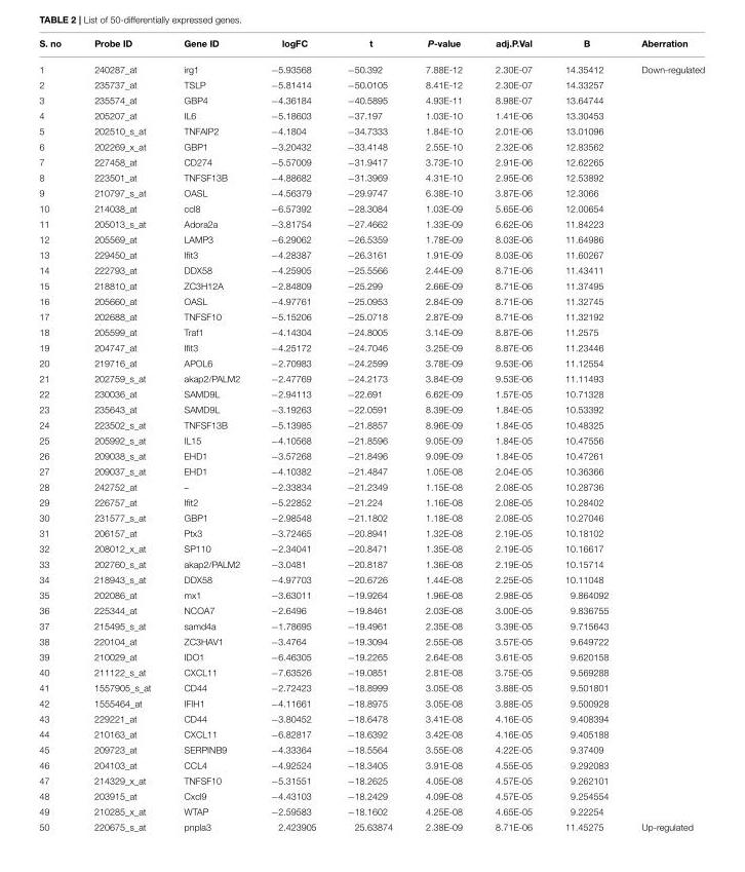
<table><thead><tr><td>S. no</td><td>Probe ID</td><td>Gene ID</td><td>logFC</td><td>t</td><td>P-value</td><td>adj.P.Val</td><td>B</td><td>Aberration</td></tr></thead><tbody><tr><td>1</td><td>240287_at</td><td>irg1</td><td>−5.93568</td><td>−50.392</td><td>7.88E-12</td><td>2.30E-07</td><td>14.35412</td><td>Down-regulated</td></tr><tr><td>2</td><td>235737_at</td><td>TSLP</td><td>−5.81414</td><td>−50.0105</td><td>8.41E-12</td><td>2.30E-07</td><td>14.33257</td><td></td></tr><tr><td>3</td><td>235574_at</td><td>GBP4</td><td>−4.36184</td><td>−40.5895</td><td>4.93E-11</td><td>8.98E-07</td><td>13.64744</td><td></td></tr><tr><td>4</td><td>205207_at</td><td>IL6</td><td>−5.18603</td><td>−37.197</td><td>1.03E-10</td><td>1.41E-06</td><td>13.30453</td><td></td></tr><tr><td>5</td><td>202510_s_at</td><td>TNFAIP2</td><td>−4.1804</td><td>−34.7333</td><td>1.84E-10</td><td>2.01E-06</td><td>13.01096</td><td></td></tr><tr><td>6</td><td>202269_x_at</td><td>GBP1</td><td>−3.20432</td><td>−33.4148</td><td>2.55E-10</td><td>2.32E-06</td><td>12.83562</td><td></td></tr><tr><td>7</td><td>227458_at</td><td>CD274</td><td>−5.57009</td><td>−31.9417</td><td>3.73E-10</td><td>2.91E-06</td><td>12.62265</td><td></td></tr><tr><td>8</td><td>223501_at</td><td>TNFSF13B</td><td>−4.88682</td><td>−31.3969</td><td>4.31E-10</td><td>2.95E-06</td><td>12.53892</td><td></td></tr><tr><td>9</td><td>210797_s_at</td><td>OASL</td><td>−4.56379</td><td>−29.9747</td><td>6.38E-10</td><td>3.87E-06</td><td>12.3066</td><td></td></tr><tr><td>10</td><td>214038_at</td><td>ccl8</td><td>−6.57392</td><td>−28.3084</td><td>1.03E-09</td><td>5.65E-06</td><td>12.00654</td><td></td></tr><tr><td>11</td><td>205013_s_at</td><td>Adora2a</td><td>−3.81754</td><td>−27.4662</td><td>1.33E-09</td><td>6.62E-06</td><td>11.84223</td><td></td></tr><tr><td>12</td><td>205569_at</td><td>LAMP3</td><td>−6.29062</td><td>−26.5359</td><td>1.78E-09</td><td>8.03E-06</td><td>11.64986</td><td></td></tr><tr><td>13</td><td>229450_at</td><td>Ifit3</td><td>−4.28387</td><td>−26.3161</td><td>1.91E-09</td><td>8.03E-06</td><td>11.60267</td><td></td></tr><tr><td>14</td><td>222793_at</td><td>DDX58</td><td>−4.25905</td><td>−25.5566</td><td>2.44E-09</td><td>8.71E-06</td><td>11.43411</td><td></td></tr><tr><td>15</td><td>218810_at</td><td>ZC3H12A</td><td>−2.84809</td><td>−25.299</td><td>2.66E-09</td><td>8.71E-06</td><td>11.37495</td><td></td></tr><tr><td>16</td><td>205660_at</td><td>OASL</td><td>−4.97761</td><td>−25.0953</td><td>2.84E-09</td><td>8.71E-06</td><td>11.32745</td><td></td></tr><tr><td>17</td><td>202688_at</td><td>TNFSF10</td><td>−5.15206</td><td>−25.0718</td><td>2.87E-09</td><td>8.71E-06</td><td>11.32192</td><td></td></tr><tr><td>18</td><td>205599_at</td><td>Traf1</td><td>−4.14304</td><td>−24.8005</td><td>3.14E-09</td><td>8.87E-06</td><td>11.2575</td><td></td></tr><tr><td>19</td><td>204747_at</td><td>Ifit3</td><td>−4.25172</td><td>−24.7046</td><td>3.25E-09</td><td>8.87E-06</td><td>11.23446</td><td></td></tr><tr><td>20</td><td>219716_at</td><td>APOL6</td><td>−2.70983</td><td>−24.2599</td><td>3.78E-09</td><td>9.53E-06</td><td>11.12554</td><td></td></tr><tr><td>21</td><td>202759_s_at</td><td>akap2/PALM2</td><td>−2.47769</td><td>−24.2173</td><td>3.84E-09</td><td>9.53E-06</td><td>11.11493</td><td></td></tr><tr><td>22</td><td>230036_at</td><td>SAMD9L</td><td>−2.94113</td><td>−22.691</td><td>6.62E-09</td><td>1.57E-05</td><td>10.71328</td><td></td></tr><tr><td>23</td><td>235643_at</td><td>SAMD9L</td><td>−3.19263</td><td>−22.0591</td><td>8.39E-09</td><td>1.84E-05</td><td>10.53392</td><td></td></tr><tr><td>24</td><td>223502_s_at</td><td>TNFSF13B</td><td>−5.13985</td><td>−21.8857</td><td>8.96E-09</td><td>1.84E-05</td><td>10.48325</td><td></td></tr><tr><td>25</td><td>205992_s_at</td><td>IL15</td><td>−4.10568</td><td>−21.8596</td><td>9.05E-09</td><td>1.84E-05</td><td>10.47556</td><td></td></tr><tr><td>26</td><td>209038_s_at</td><td>EHD1</td><td>−3.57268</td><td>−21.8496</td><td>9.09E-09</td><td>1.84E-05</td><td>10.47261</td><td></td></tr><tr><td>27</td><td>209037_s_at</td><td>EHD1</td><td>−4.10382</td><td>−21.4847</td><td>1.05E-08</td><td>2.04E-05</td><td>10.36366</td><td></td></tr><tr><td>28</td><td>242752_at</td><td>–</td><td>−2.33834</td><td>−21.2349</td><td>1.15E-08</td><td>2.08E-05</td><td>10.28736</td><td></td></tr><tr><td>29</td><td>226757_at</td><td>Ifit2</td><td>−5.22852</td><td>−21.224</td><td>1.16E-08</td><td>2.08E-05</td><td>10.28402</td><td></td></tr><tr><td>30</td><td>231577_s_at</td><td>GBP1</td><td>−2.98548</td><td>−21.1802</td><td>1.18E-08</td><td>2.08E-05</td><td>10.27046</td><td></td></tr><tr><td>31</td><td>206157_at</td><td>Ptx3</td><td>−3.72465</td><td>−20.8941</td><td>1.32E-08</td><td>2.19E-05</td><td>10.18102</td><td></td></tr><tr><td>32</td><td>208012_x_at</td><td>SP110</td><td>−2.34041</td><td>−20.8471</td><td>1.35E-08</td><td>2.19E-05</td><td>10.16617</td><td></td></tr><tr><td>33</td><td>202760_s_at</td><td>akap2/PALM2</td><td>−3.0481</td><td>−20.8187</td><td>1.36E-08</td><td>2.19E-05</td><td>10.15714</td><td></td></tr><tr><td>34</td><td>218943_s_at</td><td>DDX58</td><td>−4.97703</td><td>−20.6726</td><td>1.44E-08</td><td>2.25E-05</td><td>10.11048</td><td></td></tr><tr><td>35</td><td>202086_at</td><td>mx1</td><td>−3.63011</td><td>−19.9264</td><td>1.96E-08</td><td>2.98E-05</td><td>9.864092</td><td></td></tr><tr><td>36</td><td>225344_at</td><td>NCOA7</td><td>−2.6496</td><td>−19.8461</td><td>2.03E-08</td><td>3.00E-05</td><td>9.836755</td><td></td></tr><tr><td>37</td><td>215495_s_at</td><td>samd4a</td><td>−1.78695</td><td>−19.4961</td><td>2.35E-08</td><td>3.39E-05</td><td>9.715643</td><td></td></tr><tr><td>38</td><td>220104_at</td><td>ZC3HAV1</td><td>−3.4764</td><td>−19.3094</td><td>2.55E-08</td><td>3.57E-05</td><td>9.649722</td><td></td></tr><tr><td>39</td><td>210029_at</td><td>IDO1</td><td>−6.46305</td><td>−19.2265</td><td>2.64E-08</td><td>3.61E-05</td><td>9.620158</td><td></td></tr><tr><td>40</td><td>211122_s_at</td><td>CXCL11</td><td>−7.63526</td><td>−19.0851</td><td>2.81E-08</td><td>3.75E-05</td><td>9.569288</td><td></td></tr><tr><td>41</td><td>1557905_s_at</td><td>CD44</td><td>−2.72423</td><td>−18.8999</td><td>3.05E-08</td><td>3.88E-05</td><td>9.501801</td><td></td></tr><tr><td>42</td><td>1555464_at</td><td>IFIH1</td><td>−4.11661</td><td>−18.8975</td><td>3.05E-08</td><td>3.88E-05</td><td>9.500928</td><td></td></tr><tr><td>43</td><td>229221_at</td><td>CD44</td><td>−3.80452</td><td>−18.6478</td><td>3.41E-08</td><td>4.16E-05</td><td>9.408394</td><td></td></tr><tr><td>44</td><td>210163_at</td><td>CXCL11</td><td>−6.82817</td><td>−18.6392</td><td>3.42E-08</td><td>4.16E-05</td><td>9.405188</td><td></td></tr><tr><td>45</td><td>209723_at</td><td>SERPINB9</td><td>−4.33364</td><td>−18.5564</td><td>3.55E-08</td><td>4.22E-05</td><td>9.37409</td><td></td></tr><tr><td>46</td><td>204103_at</td><td>CCL4</td><td>−4.92524</td><td>−18.3405</td><td>3.91E-08</td><td>4.55E-05</td><td>9.292083</td><td></td></tr><tr><td>47</td><td>214329_x_at</td><td>TNFSF10</td><td>−5.31551</td><td>−18.2625</td><td>4.05E-08</td><td>4.57E-05</td><td>9.262101</td><td></td></tr><tr><td>48</td><td>203915_at</td><td>Cxcl9</td><td>−4.43103</td><td>−18.2429</td><td>4.09E-08</td><td>4.57E-05</td><td>9.254554</td><td></td></tr><tr><td>49</td><td>210285_x_at</td><td>WTAP</td><td>−2.59583</td><td>−18.1602</td><td>4.25E-08</td><td>4.65E-05</td><td>9.22254</td><td></td></tr><tr><td>50</td><td>220675_s_at</td><td>pnpla3</td><td>2.423905</td><td>25.63874</td><td>2.38E-09</td><td>8.71E-06</td><td>11.45275</td><td>Up-regulated</td></tr></tbody></table>